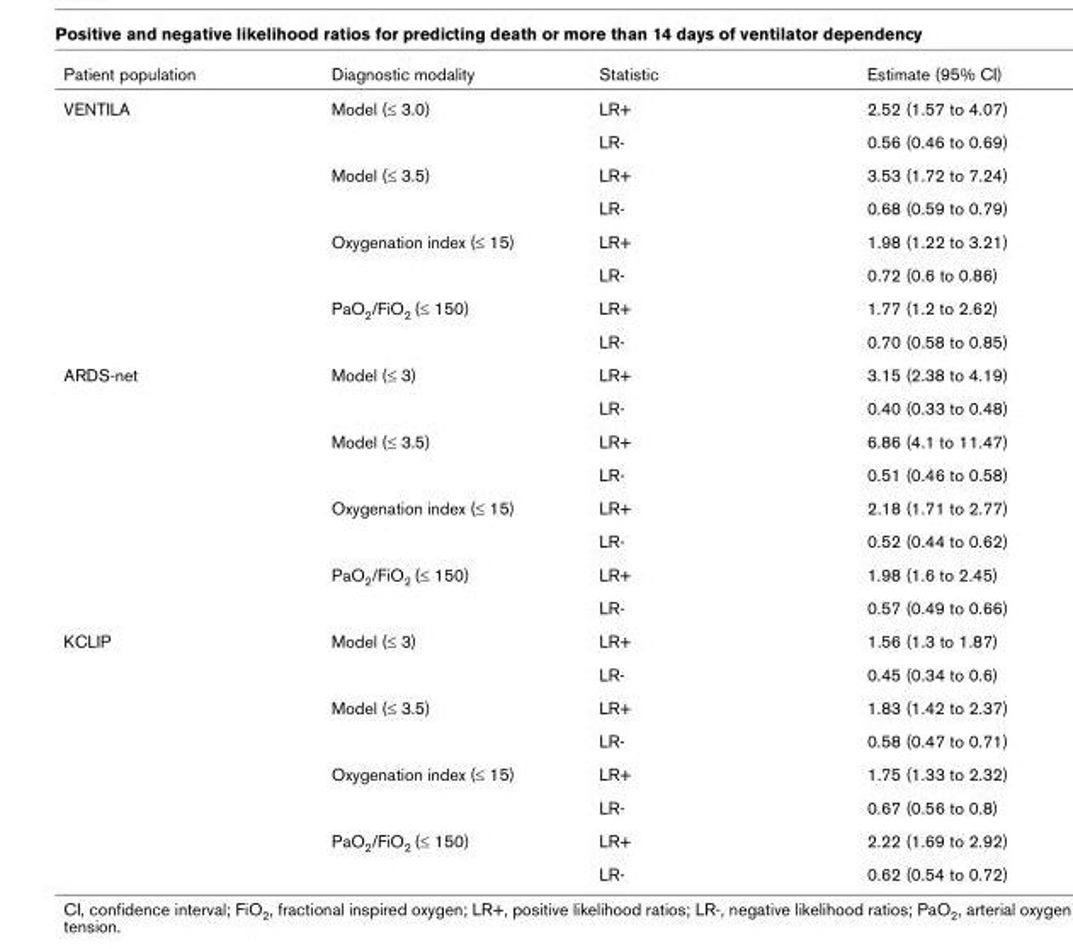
<table><thead><tr><td>Patient population</td><td>Diagnostic modality</td><td>Statistic</td><td>Estimate (95% CI)</td></tr></thead><tbody><tr><td rowspan="8">VENTILA</td><td>Model (≤ 3.0)</td><td>LR+</td><td>2.52 (1.57 to 4.07)</td></tr><tr><td></td><td>LR-</td><td>0.56 (0.46 to 0.69)</td></tr><tr><td>Model (≤ 3.5)</td><td>LR+</td><td>3.53 (1.72 to 7.24)</td></tr><tr><td></td><td>LR-</td><td>0.68 (0.59 to 0.79)</td></tr><tr><td>Oxygenation index (≤ 15)</td><td>LR+</td><td>1.98 (1.22 to 3.21)</td></tr><tr><td></td><td>LR-</td><td>0.72 (0.6 to 0.86)</td></tr><tr><td>PaO<sub>2</sub>/FiO<sub>2</sub> (≤ 150)</td><td>LR+</td><td>1.77 (1.2 to 2.62)</td></tr><tr><td></td><td>LR-</td><td>0.70 (0.58 to 0.85)</td></tr><tr><td rowspan="8">ARDS-net</td><td>Model (≤ 3)</td><td>LR+</td><td>3.15 (2.38 to 4.19)</td></tr><tr><td></td><td>LR-</td><td>0.40 (0.33 to 0.48)</td></tr><tr><td>Model (≤ 3.5)</td><td>LR+</td><td>6.86 (4.1 to 11.47)</td></tr><tr><td></td><td>LR-</td><td>0.51 (0.46 to 0.58)</td></tr><tr><td>Oxygenation index (≤ 15)</td><td>LR+</td><td>2.18 (1.71 to 2.77)</td></tr><tr><td></td><td>LR-</td><td>0.52 (0.44 to 0.62)</td></tr><tr><td>PaO<sub>2</sub>/FiO<sub>2</sub> (≤ 150)</td><td>LR+</td><td>1.98 (1.6 to 2.45)</td></tr><tr><td></td><td>LR-</td><td>0.57 (0.49 to 0.66)</td></tr><tr><td rowspan="8">KCLIP</td><td>Model (≤ 3)</td><td>LR+</td><td>1.56 (1.3 to 1.87)</td></tr><tr><td></td><td>LR-</td><td>0.45 (0.34 to 0.6)</td></tr><tr><td>Model (≤ 3.5)</td><td>LR+</td><td>1.83 (1.42 to 2.37)</td></tr><tr><td></td><td>LR-</td><td>0.58 (0.47 to 0.71)</td></tr><tr><td>Oxygenation index (≤ 15)</td><td>LR+</td><td>1.75 (1.33 to 2.32)</td></tr><tr><td></td><td>LR-</td><td>0.67 (0.56 to 0.8)</td></tr><tr><td>PaO<sub>2</sub>/FiO<sub>2</sub> (≤ 150)</td><td>LR+</td><td>2.22 (1.69 to 2.92)</td></tr><tr><td></td><td>LR-</td><td>0.62 (0.54 to 0.72)</td></tr></tbody></table>